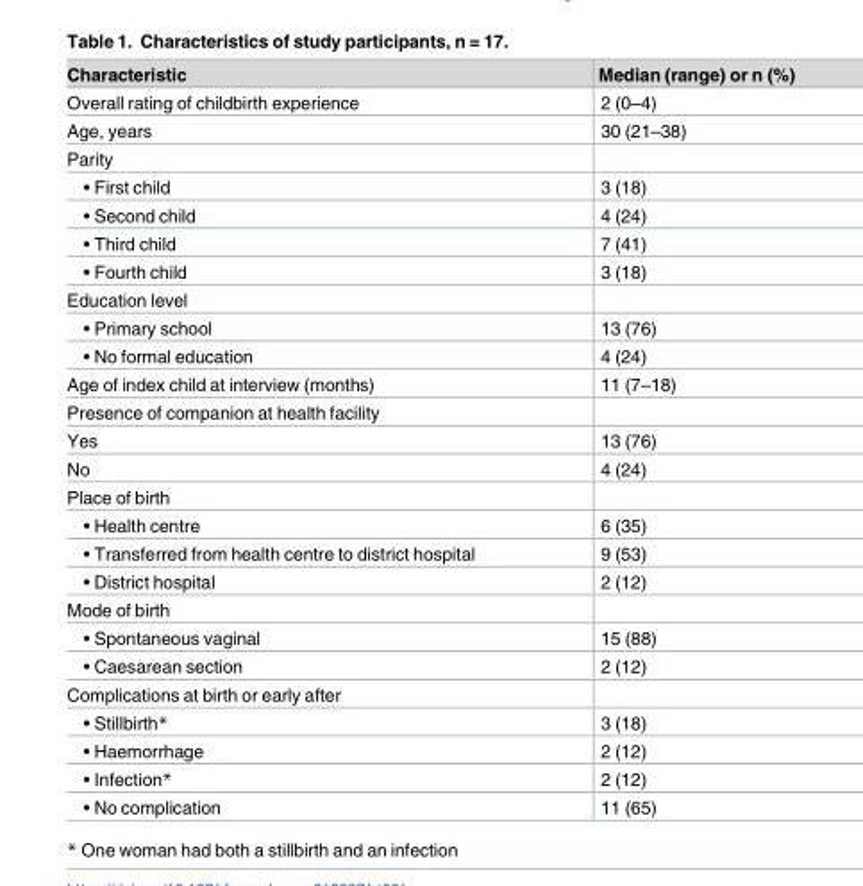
<table><thead><tr><td>Characteristic</td><td>Median (range) or n (%)</td></tr></thead><tbody><tr><td>Overall rating of childbirth experience</td><td>2 (0–4)</td></tr><tr><td>Age, years</td><td>30 (21–38)</td></tr><tr><td colspan="2">Parity</td></tr><tr><td>• First child</td><td>3 (18)</td></tr><tr><td>• Second child</td><td>4 (24)</td></tr><tr><td>• Third child</td><td>7 (41)</td></tr><tr><td>• Fourth child</td><td>3 (18)</td></tr><tr><td colspan="2">Education level</td></tr><tr><td>• Primary school</td><td>13 (76)</td></tr><tr><td>• No formal education</td><td>4 (24)</td></tr><tr><td>Age of index child at interview (months)</td><td>11 (7–18)</td></tr><tr><td colspan="2">Presence of companion at health facility</td></tr><tr><td>Yes</td><td>13 (76)</td></tr><tr><td>No</td><td>4 (24)</td></tr><tr><td colspan="2">Place of birth</td></tr><tr><td>• Health centre</td><td>6 (35)</td></tr><tr><td>• Transferred from health centre to district hospital</td><td>9 (53)</td></tr><tr><td>• District hospital</td><td>2 (12)</td></tr><tr><td colspan="2">Mode of birth</td></tr><tr><td>• Spontaneous vaginal</td><td>15 (88)</td></tr><tr><td>• Caesarean section</td><td>2 (12)</td></tr><tr><td colspan="2">Complications at birth or early after</td></tr><tr><td>• Stillbirth*</td><td>3 (18)</td></tr><tr><td>• Haemorrhage</td><td>2 (12)</td></tr><tr><td>• Infection*</td><td>2 (12)</td></tr><tr><td>• No complication</td><td>11 (65)</td></tr></tbody></table>